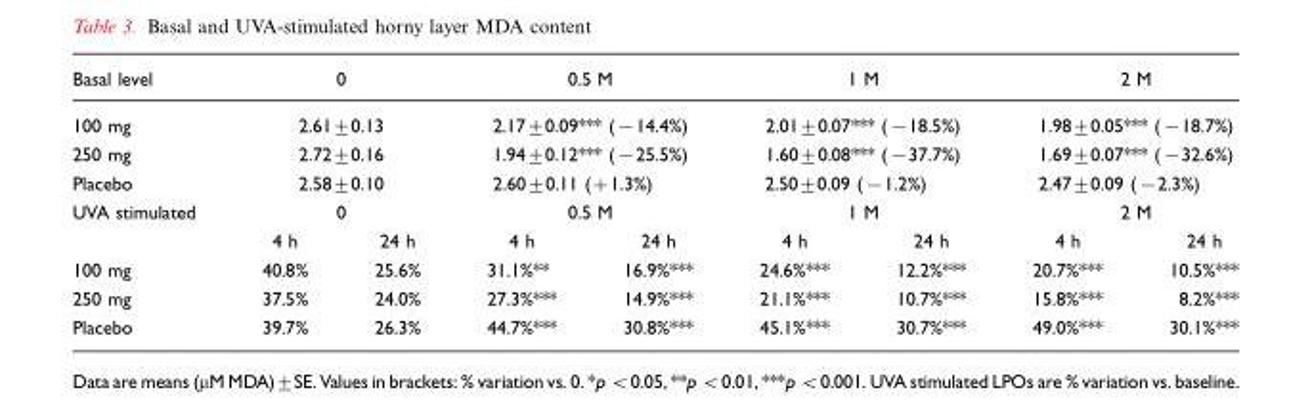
<table><thead><tr><td>Basal level</td><td colspan="2">0</td><td colspan="2">0.5 M</td><td colspan="2">1 M</td><td colspan="2">2 M</td></tr></thead><tbody><tr><td>100 mg</td><td colspan="2">2.61±0.13</td><td colspan="2">2.17±0.09*** (−14.4%)</td><td colspan="2">2.01±0.07*** (−18.5%)</td><td colspan="2">1.98±0.05*** (−18.7%)</td></tr><tr><td>250 mg</td><td colspan="2">2.72±0.16</td><td colspan="2">1.94±0.12*** (−25.5%)</td><td colspan="2">1.60±0.08*** (−37.7%)</td><td colspan="2">1.69±0.07*** (−32.6%)</td></tr><tr><td>Placebo</td><td colspan="2">2.58±0.10</td><td colspan="2">2.60±0.11 (+1.3%)</td><td colspan="2">2.50±0.09 (−1.2%)</td><td colspan="2">2.47±0.09 (−2.3%)</td></tr><tr><td rowspan="2">UVA stimulated</td><td colspan="2">0</td><td colspan="2">0.5 M</td><td colspan="2">1 M</td><td colspan="2">2 M</td></tr><tr><td>4 h</td><td>24 h</td><td>4 h</td><td>24 h</td><td>4 h</td><td>24 h</td><td>4 h</td><td>24 h</td></tr><tr><td>100 mg</td><td>40.8%</td><td>25.6%</td><td>31.1%**</td><td>16.9%***</td><td>24.6%***</td><td>12.2%***</td><td>20.7%***</td><td>10.5%***</td></tr><tr><td>250 mg</td><td>37.5%</td><td>24.0%</td><td>27.3%***</td><td>14.9%***</td><td>21.1%***</td><td>10.7%***</td><td>15.8%***</td><td>8.2%***</td></tr><tr><td>Placebo</td><td>39.7%</td><td>26.3%</td><td>44.7%***</td><td>30.8%***</td><td>45.1%***</td><td>30.7%***</td><td>49.0%***</td><td>30.1%***</td></tr></tbody></table>